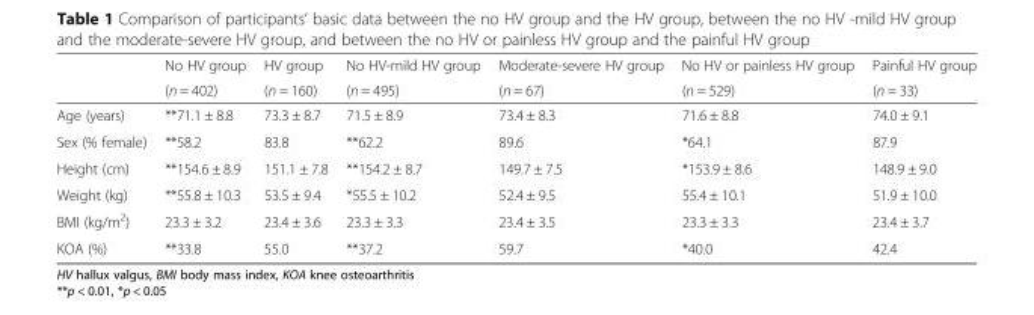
<table><thead><tr><td rowspan="2"></td><td rowspan="2">No HV group (n = 402)</td><td rowspan="2">HV group (n = 160)</td><td rowspan="2">No HV-mild HV group (n = 495)</td><td rowspan="2">Moderate-severe HV group (n = 67)</td><td rowspan="2">No HV or painless HV group (n = 529)</td><td rowspan="2">Painful HV group (n = 33)</td></tr><tr></tr></thead><tbody><tr><td>Age (years)</td><td>**71.1 ± 8.8</td><td>73.3 ± 8.7</td><td>71.5 ± 8.9</td><td>73.4 ± 8.3</td><td>71.6 ± 8.8</td><td>74.0 ± 9.1</td></tr><tr><td>Sex (% female)</td><td>**58.2</td><td>83.8</td><td>**62.2</td><td>89.6</td><td>*64.1</td><td>87.9</td></tr><tr><td>Height (cm)</td><td>**154.6 ± 8.9</td><td>151.1 ± 7.8</td><td>**154.2 ± 8.7</td><td>149.7 ± 7.5</td><td>*153.9 ± 8.6</td><td>148.9 ± 9.0</td></tr><tr><td>Weight (kg)</td><td>**55.8 ± 10.3</td><td>53.5 ± 9.4</td><td>*55.5 ± 10.2</td><td>52.4 ± 9.5</td><td>55.4 ± 10.1</td><td>51.9 ± 10.0</td></tr><tr><td>BMI (kg/m<sup>2</sup>)</td><td>23.3 ± 3.2</td><td>23.4 ± 3.6</td><td>23.3 ± 3.3</td><td>23.4 ± 3.5</td><td>23.3 ± 3.3</td><td>23.4 ± 3.7</td></tr><tr><td>KOA (%)</td><td>**33.8</td><td>55.0</td><td>**37.2</td><td>59.7</td><td>*40.0</td><td>42.4</td></tr></tbody></table>